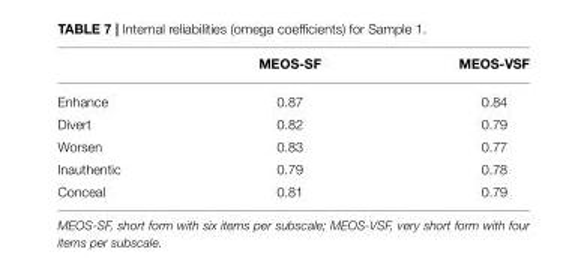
<table><thead><tr><td></td><td>MEOS-SF</td><td>MEOS-VSF</td></tr></thead><tbody><tr><td>Enhance</td><td>0.87</td><td>0.84</td></tr><tr><td>Divert</td><td>0.82</td><td>0.79</td></tr><tr><td>Worsen</td><td>0.83</td><td>0.77</td></tr><tr><td>Inauthentic</td><td>0.79</td><td>0.78</td></tr><tr><td>Conceal</td><td>0.81</td><td>0.79</td></tr></tbody></table>